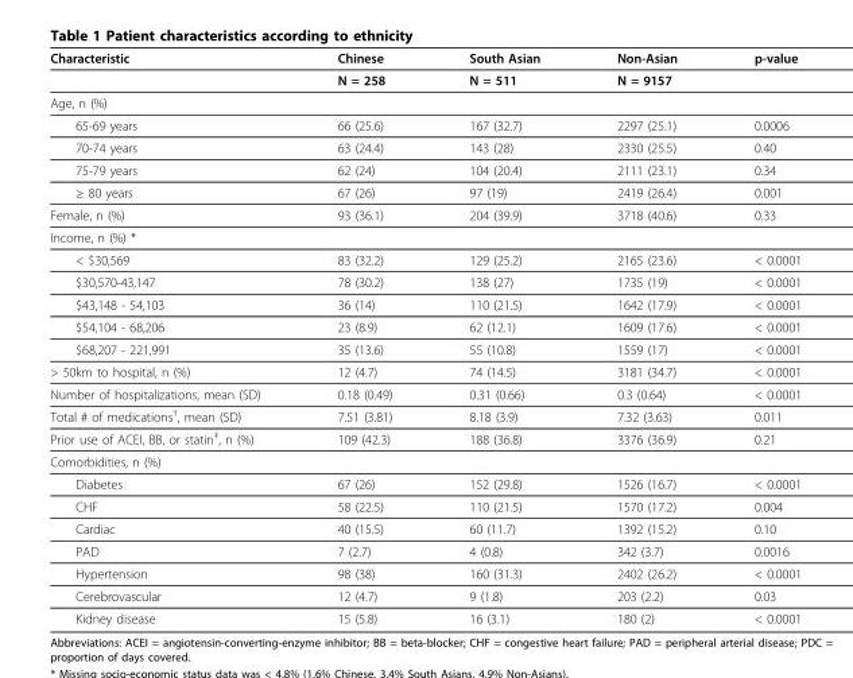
<table><thead><tr><td>Characteristic</td><td>Chinese</td><td>South Asian</td><td>Non-Asian</td><td>p-value</td></tr></thead><tbody><tr><td></td><td>N = 258</td><td>N = 511</td><td>N = 9157</td><td></td></tr><tr><td colspan="5">Age, n (%)</td></tr><tr><td>65-69 years</td><td>66 (25.6)</td><td>167 (32.7)</td><td>2297 (25.1)</td><td>0.0006</td></tr><tr><td>70-74 years</td><td>63 (24.4)</td><td>143 (28)</td><td>2330 (25.5)</td><td>0.40</td></tr><tr><td>75-79 years</td><td>62 (24)</td><td>104 (20.4)</td><td>2111 (23.1)</td><td>0.34</td></tr><tr><td>≥ 80 years</td><td>67 (26)</td><td>97 (19)</td><td>2419 (26.4)</td><td>0.001</td></tr><tr><td>Female, n (%)</td><td>93 (36.1)</td><td>204 (39.9)</td><td>3718 (40.6)</td><td>0.33</td></tr><tr><td colspan="5">Income, n (%) *</td></tr><tr><td>&lt; $30,569</td><td>83 (32.2)</td><td>129 (25.2)</td><td>2165 (23.6)</td><td>&lt; 0.0001</td></tr><tr><td>$30,570-43,147</td><td>78 (30.2)</td><td>138 (27)</td><td>1735 (19)</td><td>&lt; 0.0001</td></tr><tr><td>$43,148 - 54,103</td><td>36 (14)</td><td>110 (21.5)</td><td>1642 (17.9)</td><td>&lt; 0.0001</td></tr><tr><td>$54,104 - 68,206</td><td>23 (8.9)</td><td>62 (12.1)</td><td>1609 (17.6)</td><td>&lt; 0.0001</td></tr><tr><td>$68,207 - 221,991</td><td>35 (13.6)</td><td>55 (10.8)</td><td>1559 (17)</td><td>&lt; 0.0001</td></tr><tr><td>&gt; 50km to hospital, n (%)</td><td>12 (4.7)</td><td>74 (14.5)</td><td>3181 (34.7)</td><td>&lt; 0.0001</td></tr><tr><td>Number of hospitalizations, mean (SD)</td><td>0.18 (0.49)</td><td>0.31 (0.66)</td><td>0.3 (0.64)</td><td>&lt; 0.0001</td></tr><tr><td>Total # of medications<sup>†</sup>, mean (SD)</td><td>7.51 (3.81)</td><td>8.18 (3.9)</td><td>7.32 (3.63)</td><td>0.011</td></tr><tr><td>Prior use of ACEI, BB, or statin<sup>‡</sup>, n (%)</td><td>109 (42.3)</td><td>188 (36.8)</td><td>3376 (36.9)</td><td>0.21</td></tr><tr><td colspan="5">Comorbidities, n (%)</td></tr><tr><td>Diabetes</td><td>67 (26)</td><td>152 (29.8)</td><td>1526 (16.7)</td><td>&lt; 0.0001</td></tr><tr><td>CHF</td><td>58 (22.5)</td><td>110 (21.5)</td><td>1570 (17.2)</td><td>0.004</td></tr><tr><td>Cardiac</td><td>40 (15.5)</td><td>60 (11.7)</td><td>1392 (15.2)</td><td>0.10</td></tr><tr><td>PAD</td><td>7 (2.7)</td><td>4 (0.8)</td><td>342 (3.7)</td><td>0.0016</td></tr><tr><td>Hypertension</td><td>98 (38)</td><td>160 (31.3)</td><td>2402 (26.2)</td><td>&lt; 0.0001</td></tr><tr><td>Cerebrovascular</td><td>12 (4.7)</td><td>9 (1.8)</td><td>203 (2.2)</td><td>0.03</td></tr><tr><td>Kidney disease</td><td>15 (5.8)</td><td>16 (3.1)</td><td>180 (2)</td><td>&lt; 0.0001</td></tr></tbody></table>